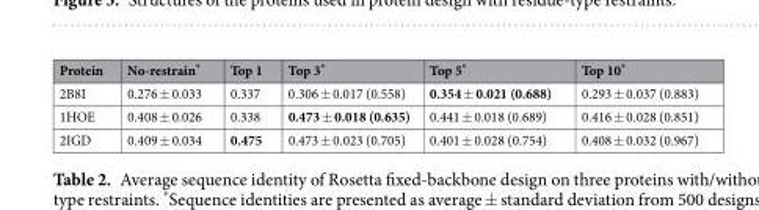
<table><thead><tr><td>Protein</td><td>No-restrain*</td><td>Top 1</td><td>Top 3*</td><td>Top 5*</td><td>Top 10*</td></tr></thead><tbody><tr><td>2B8I</td><td>0.276 ± 0.033</td><td>0.337</td><td>0.306 ± 0.017 (0.558)</td><td>0.354 ± 0.021 (0.688)</td><td>0.293 ± 0.037 (0.883)</td></tr><tr><td>1HOE</td><td>0.408 ± 0.026</td><td>0.338</td><td>0.473 ± 0.018 (0.635)</td><td>0.441 ± 0.018 (0.689)</td><td>0.416 ± 0.028 (0.851)</td></tr><tr><td>2IGD</td><td>0.409 ± 0.034</td><td>0.475</td><td>0.473 ± 0.023 (0.705)</td><td>0.401 ± 0.028 (0.754)</td><td>0.408 ± 0.032 (0.967)</td></tr></tbody></table>